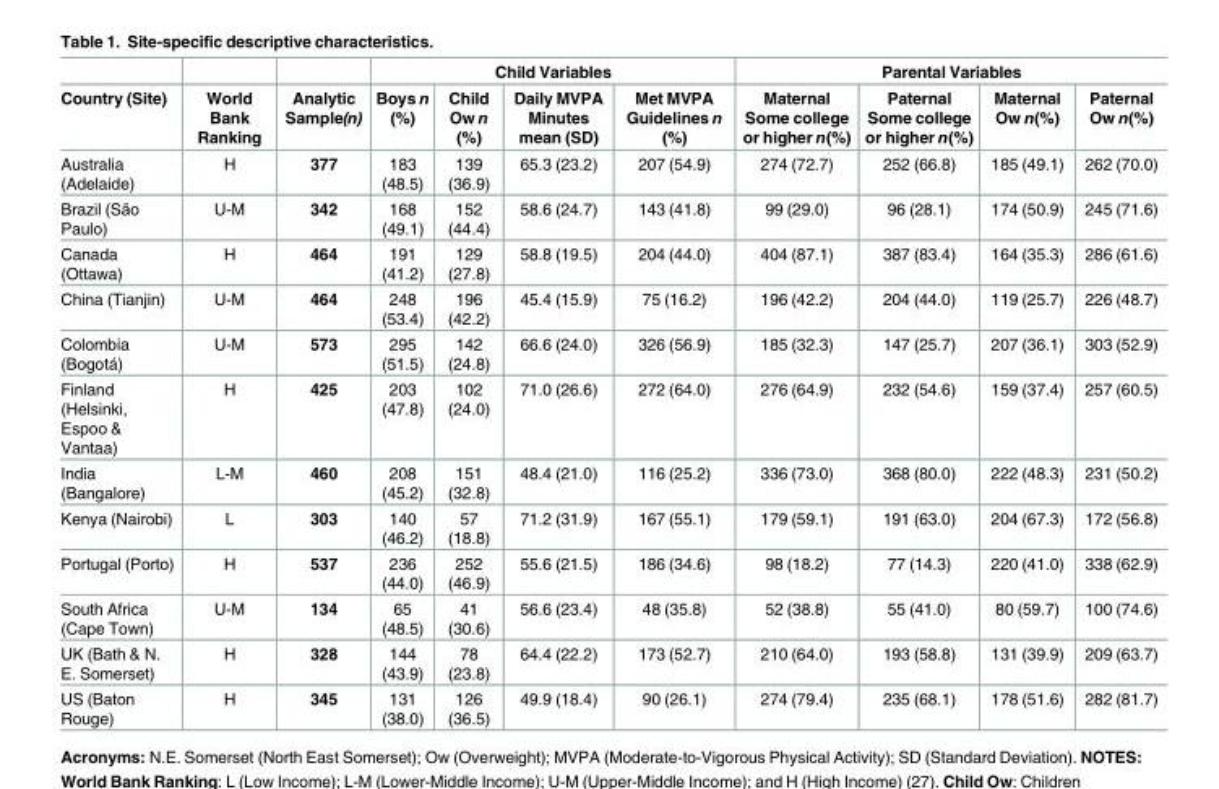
<table><thead><tr><td rowspan="2">Country (Site)</td><td rowspan="2">World Bank Ranking</td><td rowspan="2">Analytic Sample(n)</td><td colspan="4">Child Variables</td><td colspan="4">Parental Variables</td></tr><tr><td>Boys n (%)</td><td>Child Ow n (%)</td><td>Daily MVPA Minutes mean (SD)</td><td>Met MVPA Guidelines n (%)</td><td>Maternal Some college or higher n(%)</td><td>Paternal Some college or higher n(%)</td><td>Maternal Ow n(%)</td><td>Paternal Ow n(%)</td></tr></thead><tbody><tr><td>Australia (Adelaide)</td><td>H</td><td>377</td><td>183 (48.5)</td><td>139 (36.9)</td><td>65.3 (23.2)</td><td>207 (54.9)</td><td>274 (72.7)</td><td>252 (66.8)</td><td>185 (49.1)</td><td>262 (70.0)</td></tr><tr><td>Brazil (São Paulo)</td><td>U-M</td><td>342</td><td>168 (49.1)</td><td>152 (44.4)</td><td>58.6 (24.7)</td><td>143 (41.8)</td><td>99 (29.0)</td><td>96 (28.1)</td><td>174 (50.9)</td><td>245 (71.6)</td></tr><tr><td>Canada (Ottawa)</td><td>H</td><td>464</td><td>191 (41.2)</td><td>129 (27.8)</td><td>58.8 (19.5)</td><td>204 (44.0)</td><td>404 (87.1)</td><td>387 (83.4)</td><td>164 (35.3)</td><td>286 (61.6)</td></tr><tr><td>China (Tianjin)</td><td>U-M</td><td>464</td><td>248 (53.4)</td><td>196 (42.2)</td><td>45.4 (15.9)</td><td>75 (16.2)</td><td>196 (42.2)</td><td>204 (44.0)</td><td>119 (25.7)</td><td>226 (48.7)</td></tr><tr><td>Colombia (Bogotá)</td><td>U-M</td><td>573</td><td>295 (51.5)</td><td>142 (24.8)</td><td>66.6 (24.0)</td><td>326 (56.9)</td><td>185 (32.3)</td><td>147 (25.7)</td><td>207 (36.1)</td><td>303 (52.9)</td></tr><tr><td>Finland (Helsinki, Espoo &amp; Vantaa)</td><td>H</td><td>425</td><td>203 (47.8)</td><td>102 (24.0)</td><td>71.0 (26.6)</td><td>272 (64.0)</td><td>276 (64.9)</td><td>232 (54.6)</td><td>159 (37.4)</td><td>257 (60.5)</td></tr><tr><td>India (Bangalore)</td><td>L-M</td><td>460</td><td>208 (45.2)</td><td>151 (32.8)</td><td>48.4 (21.0)</td><td>116 (25.2)</td><td>336 (73.0)</td><td>368 (80.0)</td><td>222 (48.3)</td><td>231 (50.2)</td></tr><tr><td>Kenya (Nairobi)</td><td>L</td><td>303</td><td>140 (46.2)</td><td>57 (18.8)</td><td>71.2 (31.9)</td><td>167 (55.1)</td><td>179 (59.1)</td><td>191 (63.0)</td><td>204 (67.3)</td><td>172 (56.8)</td></tr><tr><td>Portugal (Porto)</td><td>H</td><td>537</td><td>236 (44.0)</td><td>252 (46.9)</td><td>55.6 (21.5)</td><td>186 (34.6)</td><td>98 (18.2)</td><td>77 (14.3)</td><td>220 (41.0)</td><td>338 (62.9)</td></tr><tr><td>South Africa (Cape Town)</td><td>U-M</td><td>134</td><td>65 (48.5)</td><td>41 (30.6)</td><td>56.6 (23.4)</td><td>48 (35.8)</td><td>52 (38.8)</td><td>55 (41.0)</td><td>80 (59.7)</td><td>100 (74.6)</td></tr><tr><td>UK (Bath &amp; N. E. Somerset)</td><td>H</td><td>328</td><td>144 (43.9)</td><td>78 (23.8)</td><td>64.4 (22.2)</td><td>173 (52.7)</td><td>210 (64.0)</td><td>193 (58.8)</td><td>131 (39.9)</td><td>209 (63.7)</td></tr><tr><td>US (Baton Rouge)</td><td>H</td><td>345</td><td>131 (38.0)</td><td>126 (36.5)</td><td>49.9 (18.4)</td><td>90 (26.1)</td><td>274 (79.4)</td><td>235 (68.1)</td><td>178 (51.6)</td><td>282 (81.7)</td></tr></tbody></table>